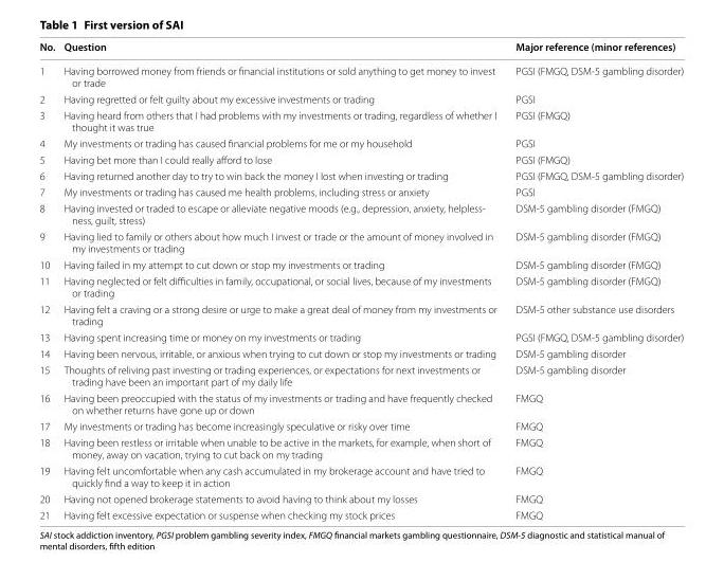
<table><thead><tr><td>No.</td><td>Question</td><td>Major reference (minor references)</td></tr></thead><tbody><tr><td>1</td><td>Having borrowed money from friends or financial institutions or sold anything to get money to invest or trade</td><td>PGSI (FMGQ, DSM‑5 gambling disorder)</td></tr><tr><td>2</td><td>Having regretted or felt guilty about my excessive investments or trading</td><td>PGSI</td></tr><tr><td>3</td><td>Having heard from others that I had problems with my investments or trading, regardless of whether I thought it was true</td><td>PGSI (FMGQ)</td></tr><tr><td>4</td><td>My investments or trading has caused financial problems for me or my household</td><td>PGSI</td></tr><tr><td>5</td><td>Having bet more than I could really afford to lose</td><td>PGSI (FMGQ)</td></tr><tr><td>6</td><td>Having returned another day to try to win back the money I lost when investing or trading</td><td>PGSI (FMGQ, DSM‑5 gambling disorder)</td></tr><tr><td>7</td><td>My investments or trading has caused me health problems, including stress or anxiety</td><td>PGSI</td></tr><tr><td>8</td><td>Having invested or traded to escape or alleviate negative moods (e.g., depression, anxiety, helpless‑ ness, guilt, stress)</td><td>DSM‑5 gambling disorder (FMGQ)</td></tr><tr><td>9</td><td>Having lied to family or others about how much I invest or trade or the amount of money involved in my investments or trading</td><td>DSM‑5 gambling disorder (FMGQ)</td></tr><tr><td>10</td><td>Having failed in my attempt to cut down or stop my investments or trading</td><td>DSM‑5 gambling disorder (FMGQ)</td></tr><tr><td>11</td><td>Having neglected or felt difficulties in family, occupational, or social lives, because of my investments or trading</td><td>DSM‑5 gambling disorder (FMGQ)</td></tr><tr><td>12</td><td>Having felt a craving or a strong desire or urge to make a great deal of money from my investments or trading</td><td>DSM‑5 other substance use disorders</td></tr><tr><td>13</td><td>Having spent increasing time or money on my investments or trading</td><td>PGSI (FMGQ, DSM‑5 gambling disorder)</td></tr><tr><td>14</td><td>Having been nervous, irritable, or anxious when trying to cut down or stop my investments or trading</td><td>DSM‑5 gambling disorder</td></tr><tr><td>15</td><td>Thoughts of reliving past investing or trading experiences, or expectations for next investments or trading have been an important part of my daily life</td><td>DSM‑5 gambling disorder</td></tr><tr><td>16</td><td>Having been preoccupied with the status of my investments or trading and have frequently checked on whether returns have gone up or down</td><td>FMGQ</td></tr><tr><td>17</td><td>My investments or trading has become increasingly speculative or risky over time</td><td>FMGQ</td></tr><tr><td>18</td><td>Having been restless or irritable when unable to be active in the markets, for example, when short of money, away on vacation, trying to cut back on my trading</td><td>FMGQ</td></tr><tr><td>19</td><td>Having felt uncomfortable when any cash accumulated in my brokerage account and have tried to quickly find a way to keep it in action</td><td>FMGQ</td></tr><tr><td>20</td><td>Having not opened brokerage statements to avoid having to think about my losses</td><td>FMGQ</td></tr><tr><td>21</td><td>Having felt excessive expectation or suspense when checking my stock prices</td><td>FMGQ</td></tr></tbody></table>